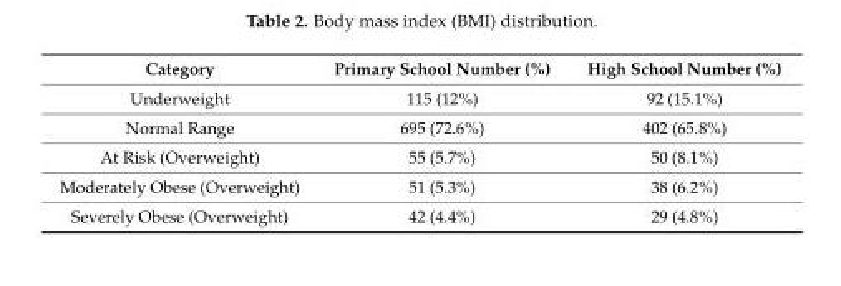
<table><thead><tr><td>Category</td><td>Primary School Number (%)</td><td>High School Number (%)</td></tr></thead><tbody><tr><td>Underweight</td><td>115 (12%)</td><td>92 (15.1%)</td></tr><tr><td>Normal Range</td><td>695 (72.6%)</td><td>402 (65.8%)</td></tr><tr><td>At Risk (Overweight)</td><td>55 (5.7%)</td><td>50 (8.1%)</td></tr><tr><td>Moderately Obese (Overweight)</td><td>51 (5.3%)</td><td>38 (6.2%)</td></tr><tr><td>Severely Obese (Overweight)</td><td>42 (4.4%)</td><td>29 (4.8%)</td></tr></tbody></table>